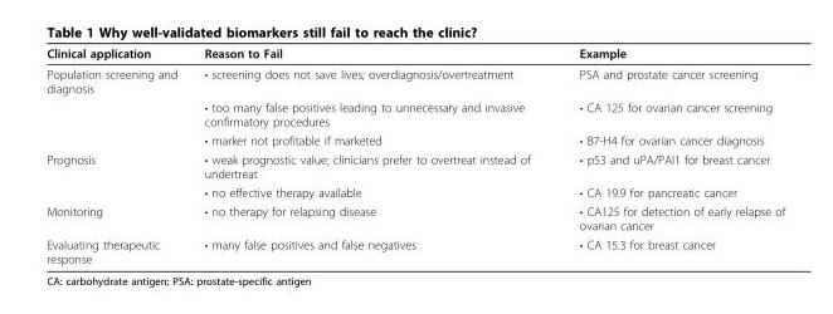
<table><thead><tr><td>Clinical application</td><td>Reason to Fail</td><td>Example</td></tr></thead><tbody><tr><td rowspan="3">Population screening and diagnosis</td><td>• screening does not save lives; overdiagnosis/overtreatment</td><td>PSA and prostate cancer screening</td></tr><tr><td>• too many false positives leading to unnecessary and invasive confirmatory procedures</td><td>• CA 125 for ovarian cancer screening</td></tr><tr><td>• marker not profitable if marketed</td><td>• B7-H4 for ovarian cancer diagnosis</td></tr><tr><td rowspan="2">Prognosis</td><td>• weak prognostic value; clinicians prefer to overtreat instead of undertreat</td><td>• p53 and uPA/PAI1 for breast cancer</td></tr><tr><td>• no effective therapy available</td><td>• CA 19.9 for pancreatic cancer</td></tr><tr><td>Monitoring</td><td>• no therapy for relapsing disease</td><td>• CA125 for detection of early relapse of ovarian cancer</td></tr><tr><td>Evaluating therapeutic response</td><td>• many false positives and false negatives</td><td>• CA 15.3 for breast cancer</td></tr></tbody></table>